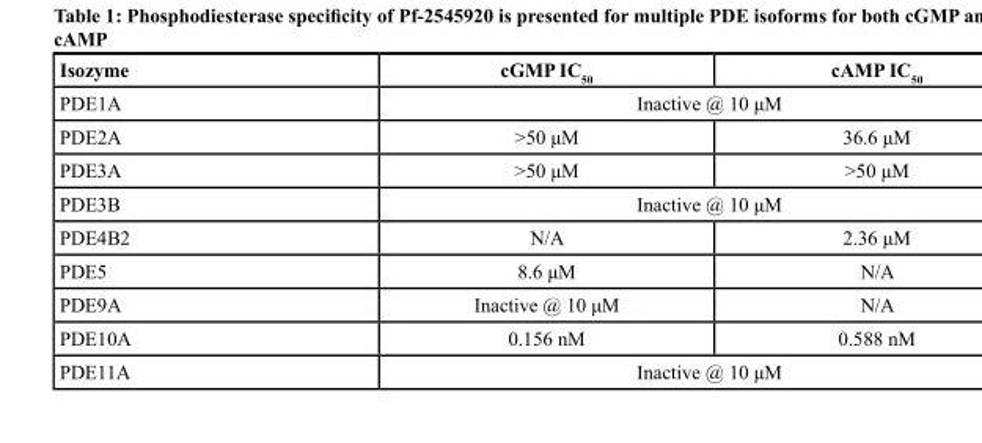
<table><thead><tr><td>Isozyme</td><td>cGMP IC <sub>50</sub></td><td>cAMP IC <sub>50</sub></td></tr></thead><tbody><tr><td>PDE1A</td><td colspan="2">Inactive @ 10 μM</td></tr><tr><td>PDE2A</td><td>&gt;50 μM</td><td>36.6 μM</td></tr><tr><td>PDE3A</td><td>&gt;50 μM</td><td>&gt;50 μM</td></tr><tr><td>PDE3B</td><td colspan="2">Inactive @ 10 μM</td></tr><tr><td>PDE4B2</td><td>N/A</td><td>2.36 μM</td></tr><tr><td>PDE5</td><td>8.6 μM</td><td>N/A</td></tr><tr><td>PDE9A</td><td>Inactive @ 10 μM</td><td>N/A</td></tr><tr><td>PDE10A</td><td>0.156 nM</td><td>0.588 nM</td></tr><tr><td>PDE11A</td><td colspan="2">Inactive @ 10 μM</td></tr></tbody></table>